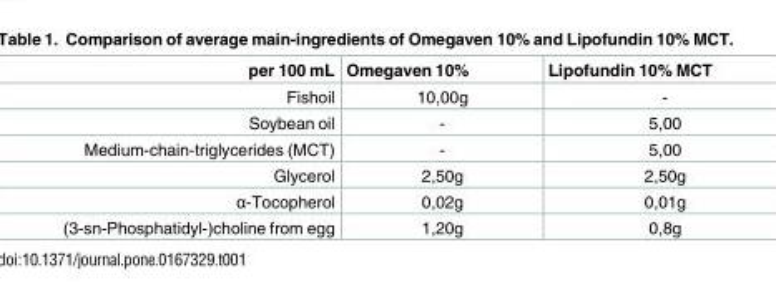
<table><thead><tr><td>per 100 mL</td><td>Omegaven 10%</td><td>Lipofundin 10% MCT</td></tr></thead><tbody><tr><td>Fishoil</td><td>10,00g</td><td>-</td></tr><tr><td>Soybean oil</td><td>-</td><td>5,00</td></tr><tr><td>Medium-chain-triglycerides (MCT)</td><td>-</td><td>5,00</td></tr><tr><td>Glycerol</td><td>2,50g</td><td>2,50g</td></tr><tr><td>α-Tocopherol</td><td>0,02g</td><td>0,01g</td></tr><tr><td>(3-sn-Phosphatidyl-)choline from egg</td><td>1,20g</td><td>0,8g</td></tr></tbody></table>